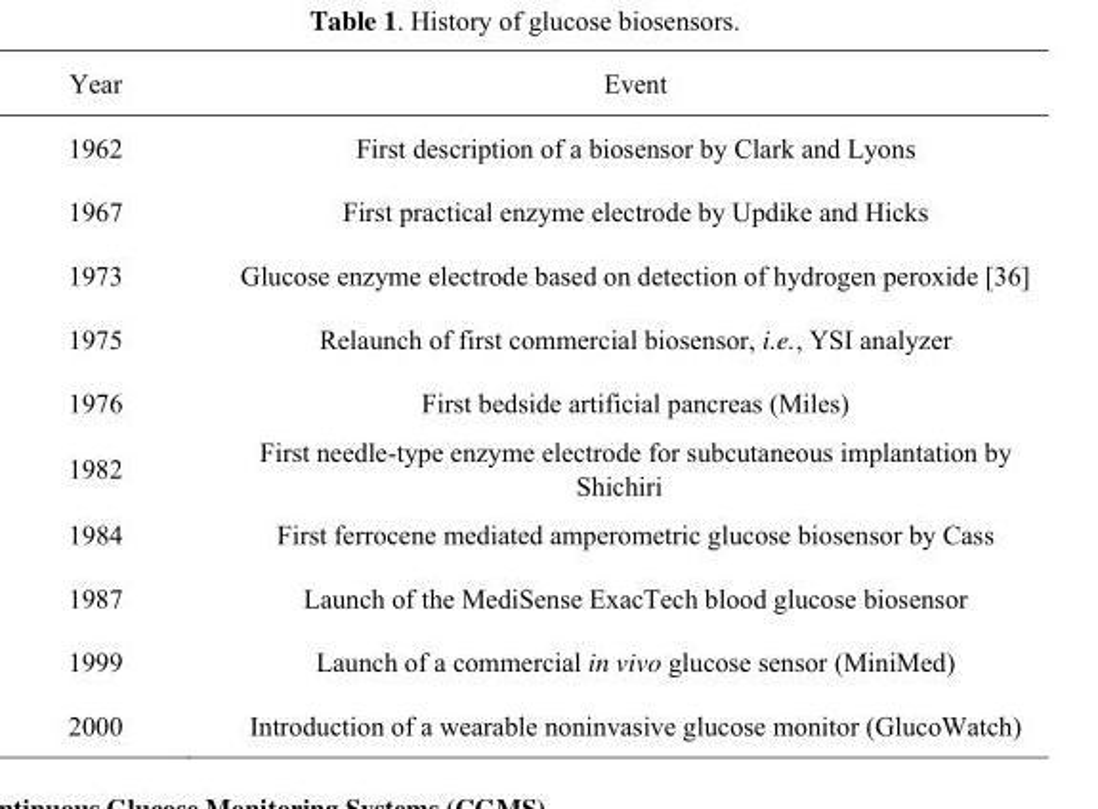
<table><thead><tr><td>Year</td><td>Event</td></tr></thead><tbody><tr><td>1962</td><td>First description of a biosensor by Clark and Lyons</td></tr><tr><td>1967</td><td>First practical enzyme electrode by Updike and Hicks</td></tr><tr><td>1973</td><td>Glucose enzyme electrode based on detection of hydrogen peroxide [36]</td></tr><tr><td>1975</td><td>Relaunch of first commercial biosensor, i.e., YSI analyzer</td></tr><tr><td>1976</td><td>First bedside artificial pancreas (Miles)</td></tr><tr><td>1982</td><td>First needle-type enzyme electrode for subcutaneous implantation by Shichiri</td></tr><tr><td>1984</td><td>First ferrocene mediated amperometric glucose biosensor by Cass</td></tr><tr><td>1987</td><td>Launch of the MediSense ExacTech blood glucose biosensor</td></tr><tr><td>1999</td><td>Launch of a commercial in vivo glucose sensor (MiniMed)</td></tr><tr><td>2000</td><td>Introduction of a wearable noninvasive glucose monitor (GlucoWatch)</td></tr></tbody></table>